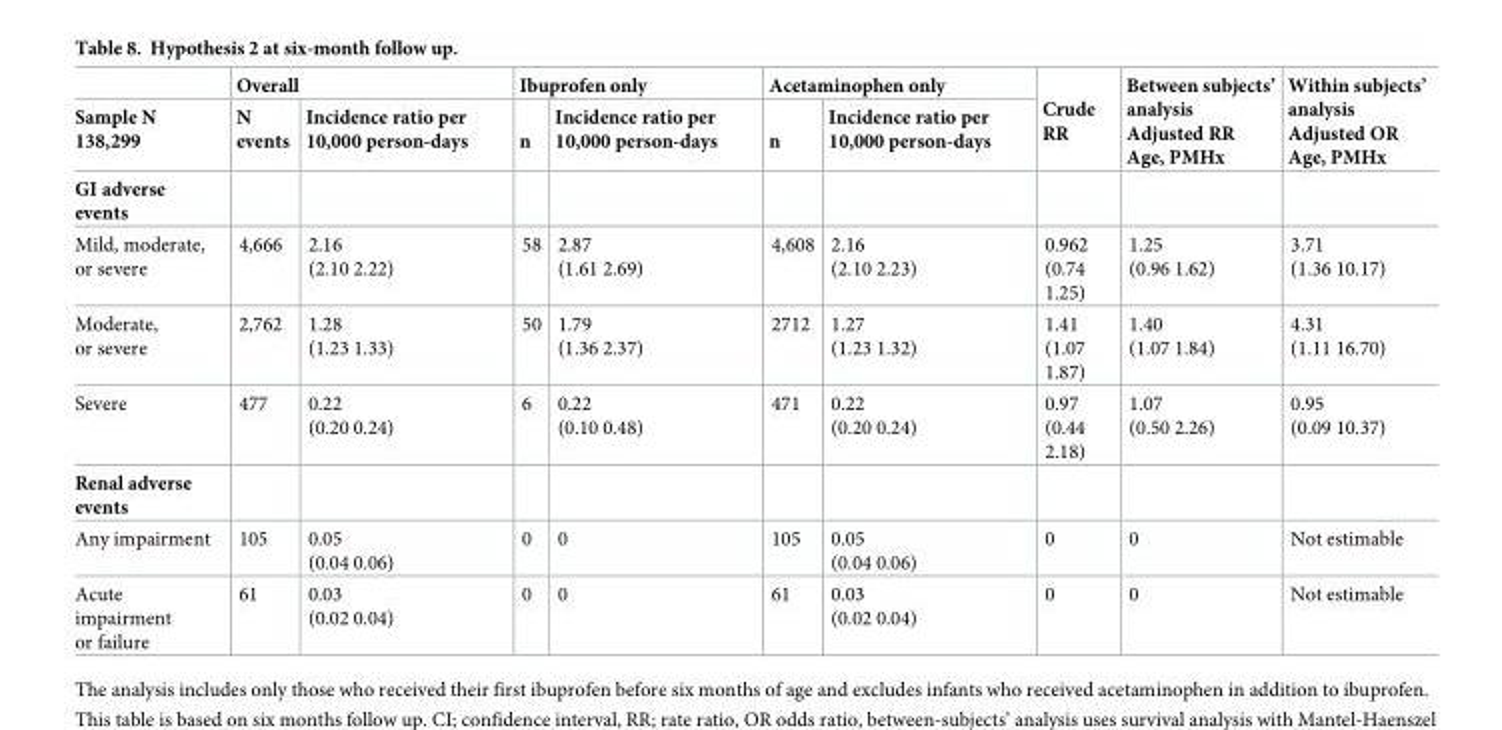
<table><thead><tr><td rowspan="2">Sample N 138,299</td><td colspan="2">Overall</td><td colspan="2">Ibuprofen only</td><td colspan="2">Acetaminophen only</td><td rowspan="2">Crude RR</td><td rowspan="2">Between subjects’ analysis Adjusted RR Age, PMHx</td><td rowspan="2">Within subjects’ analysis Adjusted OR Age, PMHx</td></tr><tr><td>N events</td><td>Incidence ratio per 10,000 person-days</td><td>n</td><td>Incidence ratio per 10,000 person-days</td><td>n</td><td>Incidence ratio per 10,000 person-days</td></tr></thead><tbody><tr><td colspan="10">GI adverse events</td></tr><tr><td>Mild, moderate, or severe</td><td>4,666</td><td>2.16 (2.10 2.22)</td><td>58</td><td>2.87 (1.61 2.69)</td><td>4,608</td><td>2.16 (2.10 2.23)</td><td>0.962 (0.74 1.25)</td><td>1.25 (0.96 1.62)</td><td>3.71 (1.36 10.17)</td></tr><tr><td>Moderate, or severe</td><td>2,762</td><td>1.28 (1.23 1.33)</td><td>50</td><td>1.79 (1.36 2.37)</td><td>2712</td><td>1.27 (1.23 1.32)</td><td>1.41 (1.07 1.87)</td><td>1.40 (1.07 1.84)</td><td>4.31 (1.11 16.70)</td></tr><tr><td>Severe</td><td>477</td><td>0.22 (0.20 0.24)</td><td>6</td><td>0.22 (0.10 0.48)</td><td>471</td><td>0.22 (0.20 0.24)</td><td>0.97 (0.44 2.18)</td><td>1.07 (0.50 2.26)</td><td>0.95 (0.09 10.37)</td></tr><tr><td colspan="10">Renal adverse events</td></tr><tr><td>Any impairment</td><td>105</td><td>0.05 (0.04 0.06)</td><td>0</td><td>0</td><td>105</td><td>0.05 (0.04 0.06)</td><td>0</td><td>0</td><td>Not estimable</td></tr><tr><td>Acute impairment or failure</td><td>61</td><td>0.03 (0.02 0.04)</td><td>0</td><td>0</td><td>61</td><td>0.03 (0.02 0.04)</td><td>0</td><td>0</td><td>Not estimable</td></tr></tbody></table>